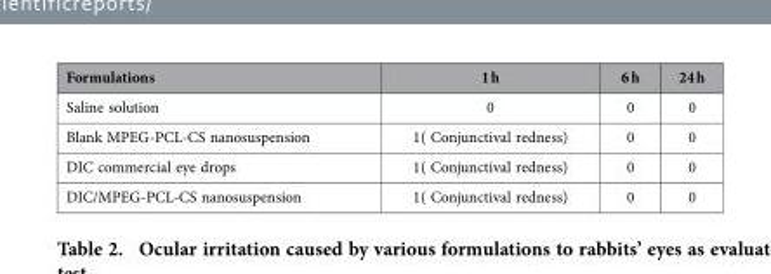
<table><thead><tr><td>Formulations</td><td>1 h</td><td>6 h</td><td>24 h</td></tr></thead><tbody><tr><td>Saline solution</td><td>0</td><td>0</td><td>0</td></tr><tr><td>Blank MPEG-PCL-CS nanosuspension</td><td>1( Conjunctival redness)</td><td>0</td><td>0</td></tr><tr><td>DIC commercial eye drops</td><td>1( Conjunctival redness)</td><td>0</td><td>0</td></tr><tr><td>DIC/MPEG-PCL-CS nanosuspension</td><td>1( Conjunctival redness)</td><td>0</td><td>0</td></tr></tbody></table>